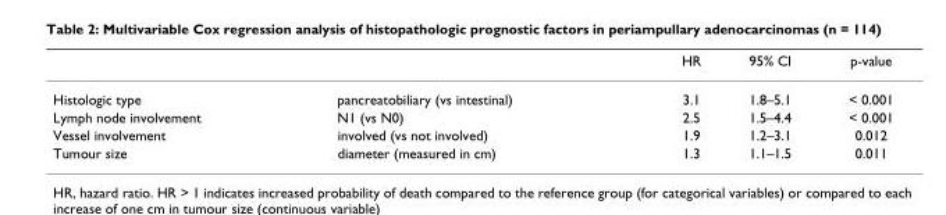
<table><thead><tr><td></td><td></td><td>HR</td><td>95% CI</td><td>p-value</td></tr></thead><tbody><tr><td>Histologic type</td><td>pancreatobiliary (vs intestinal)</td><td>3.1</td><td>1.8–5.1</td><td>&lt; 0.001</td></tr><tr><td>Lymph node involvement</td><td>N1 (vs N0)</td><td>2.5</td><td>1.5–4.4</td><td>&lt; 0.001</td></tr><tr><td>Vessel involvement</td><td>involved (vs not involved)</td><td>1.9</td><td>1.2–3.1</td><td>0.012</td></tr><tr><td>Tumour size</td><td>diameter (measured in cm)</td><td>1.3</td><td>1.1–1.5</td><td>0.011</td></tr></tbody></table>